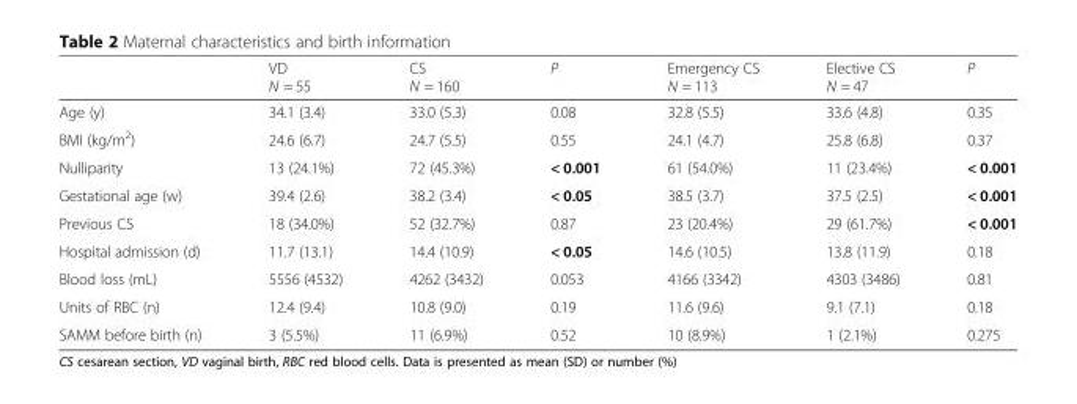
<table><thead><tr><td></td><td>VD N = 55</td><td>CS N = 160</td><td>P</td><td>Emergency CS N = 113</td><td>Elective CS N = 47</td><td>P</td></tr></thead><tbody><tr><td>Age (y)</td><td>34.1 (3.4)</td><td>33.0 (5.3)</td><td>0.08</td><td>32.8 (5.5)</td><td>33.6 (4.8)</td><td>0.35</td></tr><tr><td>BMI (kg/m<sup>2</sup>)</td><td>24.6 (6.7)</td><td>24.7 (5.5)</td><td>0.55</td><td>24.1 (4.7)</td><td>25.8 (6.8)</td><td>0.37</td></tr><tr><td>Nulliparity</td><td>13 (24.1%)</td><td>72 (45.3%)</td><td>&lt; 0.001</td><td>61 (54.0%)</td><td>11 (23.4%)</td><td>&lt; 0.001</td></tr><tr><td>Gestational age (w)</td><td>39.4 (2.6)</td><td>38.2 (3.4)</td><td>&lt; 0.05</td><td>38.5 (3.7)</td><td>37.5 (2.5)</td><td>&lt; 0.001</td></tr><tr><td>Previous CS</td><td>18 (34.0%)</td><td>52 (32.7%)</td><td>0.87</td><td>23 (20.4%)</td><td>29 (61.7%)</td><td>&lt; 0.001</td></tr><tr><td>Hospital admission (d)</td><td>11.7 (13.1)</td><td>14.4 (10.9)</td><td>&lt; 0.05</td><td>14.6 (10.5)</td><td>13.8 (11.9)</td><td>0.18</td></tr><tr><td>Blood loss (mL)</td><td>5556 (4532)</td><td>4262 (3432)</td><td>0.053</td><td>4166 (3342)</td><td>4303 (3486)</td><td>0.81</td></tr><tr><td>Units of RBC (n)</td><td>12.4 (9.4)</td><td>10.8 (9.0)</td><td>0.19</td><td>11.6 (9.6)</td><td>9.1 (7.1)</td><td>0.18</td></tr><tr><td>SAMM before birth (n)</td><td>3 (5.5%)</td><td>11 (6.9%)</td><td>0.52</td><td>10 (8.9%)</td><td>1 (2.1%)</td><td>0.275</td></tr></tbody></table>